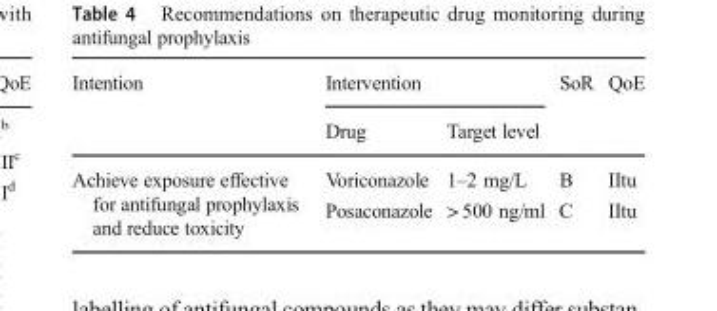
<table><thead><tr><td rowspan="2">Intention</td><td colspan="2">Intervention</td><td rowspan="2">SoR</td><td rowspan="2">QoE</td></tr><tr><td>Drug</td><td>Target level</td></tr></thead><tbody><tr><td rowspan="2">Achieve exposure effective for antifungal prophylaxis and reduce toxicity</td><td>Voriconazole</td><td>1–2 mg/L</td><td>B</td><td>IItu</td></tr><tr><td>Posaconazole</td><td>&gt; 500 ng/ml</td><td>C</td><td>IItu</td></tr></tbody></table>